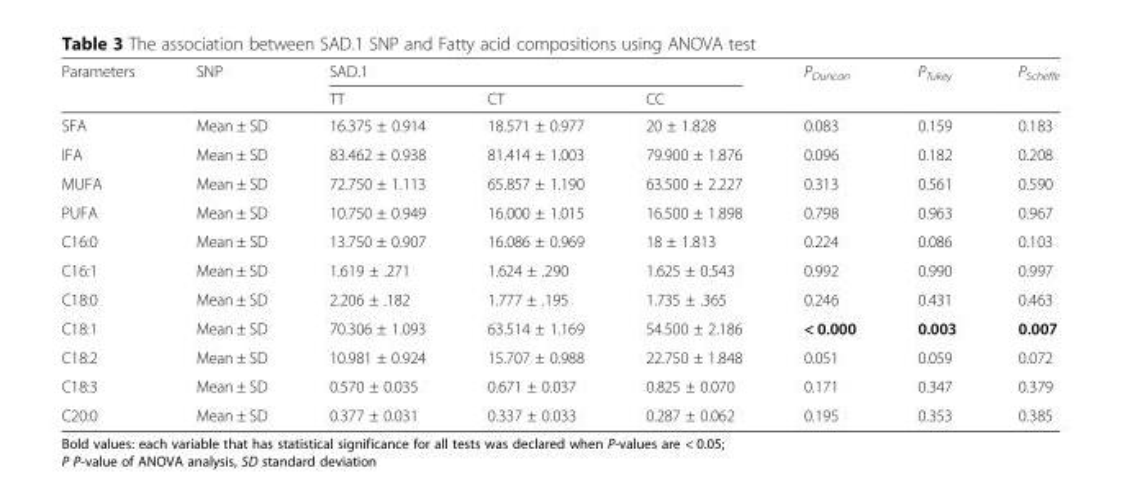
<table><thead><tr><td rowspan="2">Parameters</td><td rowspan="2">SNP</td><td colspan="3">SAD.1</td><td rowspan="2">P<sub>Duncan</sub></td><td rowspan="2">P<sub>Tukey</sub></td><td rowspan="2">P<sub>Scheffe</sub></td></tr><tr><td>TT</td><td>CT</td><td>CC</td></tr></thead><tbody><tr><td>SFA</td><td>Mean ± SD</td><td>16.375 ± 0.914</td><td>18.571 ± 0.977</td><td>20 ± 1.828</td><td>0.083</td><td>0.159</td><td>0.183</td></tr><tr><td>IFA</td><td>Mean ± SD</td><td>83.462 ± 0.938</td><td>81.414 ± 1.003</td><td>79.900 ± 1.876</td><td>0.096</td><td>0.182</td><td>0.208</td></tr><tr><td>MUFA</td><td>Mean ± SD</td><td>72.750 ± 1.113</td><td>65.857 ± 1.190</td><td>63.500 ± 2.227</td><td>0.313</td><td>0.561</td><td>0.590</td></tr><tr><td>PUFA</td><td>Mean ± SD</td><td>10.750 ± 0.949</td><td>16.000 ± 1.015</td><td>16.500 ± 1.898</td><td>0.798</td><td>0.963</td><td>0.967</td></tr><tr><td>C16:0</td><td>Mean ± SD</td><td>13.750 ± 0.907</td><td>16.086 ± 0.969</td><td>18 ± 1.813</td><td>0.224</td><td>0.086</td><td>0.103</td></tr><tr><td>C16:1</td><td>Mean ± SD</td><td>1.619 ± .271</td><td>1.624 ± .290</td><td>1.625 ± 0.543</td><td>0.992</td><td>0.990</td><td>0.997</td></tr><tr><td>C18:0</td><td>Mean ± SD</td><td>2.206 ± .182</td><td>1.777 ± .195</td><td>1.735 ± .365</td><td>0.246</td><td>0.431</td><td>0.463</td></tr><tr><td>C18:1</td><td>Mean ± SD</td><td>70.306 ± 1.093</td><td>63.514 ± 1.169</td><td>54.500 ± 2.186</td><td>&lt; 0.000</td><td>0.003</td><td>0.007</td></tr><tr><td>C18:2</td><td>Mean ± SD</td><td>10.981 ± 0.924</td><td>15.707 ± 0.988</td><td>22.750 ± 1.848</td><td>0.051</td><td>0.059</td><td>0.072</td></tr><tr><td>C18:3</td><td>Mean ± SD</td><td>0.570 ± 0.035</td><td>0.671 ± 0.037</td><td>0.825 ± 0.070</td><td>0.171</td><td>0.347</td><td>0.379</td></tr><tr><td>C20:0</td><td>Mean ± SD</td><td>0.377 ± 0.031</td><td>0.337 ± 0.033</td><td>0.287 ± 0.062</td><td>0.195</td><td>0.353</td><td>0.385</td></tr></tbody></table>